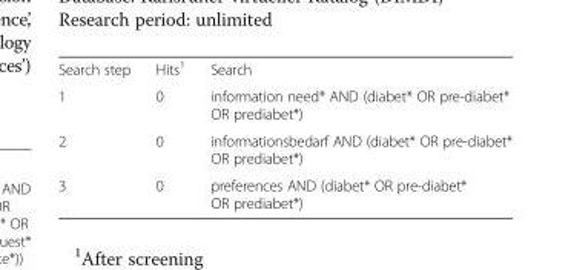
<table><tbody><tr><td>Search step</td><td>Hits<sup>1</sup></td><td>Search</td></tr><tr><td>1</td><td>0</td><td>information need* AND (diabet* OR pre-diabet* OR prediabet*)</td></tr><tr><td>2</td><td>0</td><td>informationsbedarf AND (diabet* OR pre-diabet* OR prediabet*)</td></tr><tr><td>3</td><td>0</td><td>preferences AND (diabet* OR pre-diabet* OR prediabet*)</td></tr></tbody></table>